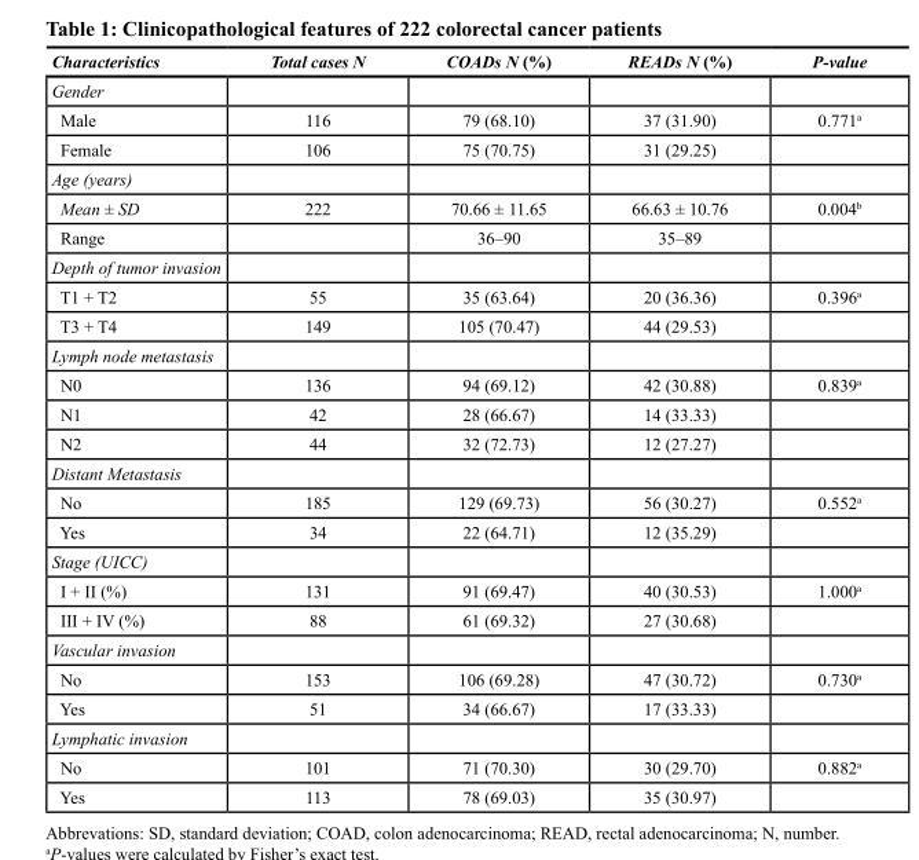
<table><thead><tr><td>Characteristics</td><td>Total cases N</td><td>COADs N (%)</td><td>READs N (%)</td><td>P-value</td></tr></thead><tbody><tr><td colspan="5">Gender</td></tr><tr><td>Male</td><td>116</td><td>79 (68.10)</td><td>37 (31.90)</td><td>0.771<sup>a</sup></td></tr><tr><td>Female</td><td>106</td><td>75 (70.75)</td><td>31 (29.25)</td><td></td></tr><tr><td colspan="5">Age (years)</td></tr><tr><td>Mean ± SD</td><td>222</td><td>70.66 ± 11.65</td><td>66.63 ± 10.76</td><td>0.004<sup>b</sup></td></tr><tr><td>Range</td><td></td><td>36–90</td><td>35–89</td><td></td></tr><tr><td colspan="5">Depth of tumor invasion</td></tr><tr><td>T1 + T2</td><td>55</td><td>35 (63.64)</td><td>20 (36.36)</td><td>0.396<sup>a</sup></td></tr><tr><td>T3 + T4</td><td>149</td><td>105 (70.47)</td><td>44 (29.53)</td><td></td></tr><tr><td colspan="5">Lymph node metastasis</td></tr><tr><td>N0</td><td>136</td><td>94 (69.12)</td><td>42 (30.88)</td><td>0.839<sup>a</sup></td></tr><tr><td>N1</td><td>42</td><td>28 (66.67)</td><td>14 (33.33)</td><td></td></tr><tr><td>N2</td><td>44</td><td>32 (72.73)</td><td>12 (27.27)</td><td></td></tr><tr><td colspan="5">Distant Metastasis</td></tr><tr><td>No</td><td>185</td><td>129 (69.73)</td><td>56 (30.27)</td><td>0.552<sup>a</sup></td></tr><tr><td>Yes</td><td>34</td><td>22 (64.71)</td><td>12 (35.29)</td><td></td></tr><tr><td colspan="5">Stage (UICC)</td></tr><tr><td>I + II (%)</td><td>131</td><td>91 (69.47)</td><td>40 (30.53)</td><td>1.000<sup>a</sup></td></tr><tr><td>III + IV (%)</td><td>88</td><td>61 (69.32)</td><td>27 (30.68)</td><td></td></tr><tr><td colspan="5">Vascular invasion</td></tr><tr><td>No</td><td>153</td><td>106 (69.28)</td><td>47 (30.72)</td><td>0.730<sup>a</sup></td></tr><tr><td>Yes</td><td>51</td><td>34 (66.67)</td><td>17 (33.33)</td><td></td></tr><tr><td colspan="5">Lymphatic invasion</td></tr><tr><td>No</td><td>101</td><td>71 (70.30)</td><td>30 (29.70)</td><td>0.882<sup>a</sup></td></tr><tr><td>Yes</td><td>113</td><td>78 (69.03)</td><td>35 (30.97)</td><td></td></tr></tbody></table>